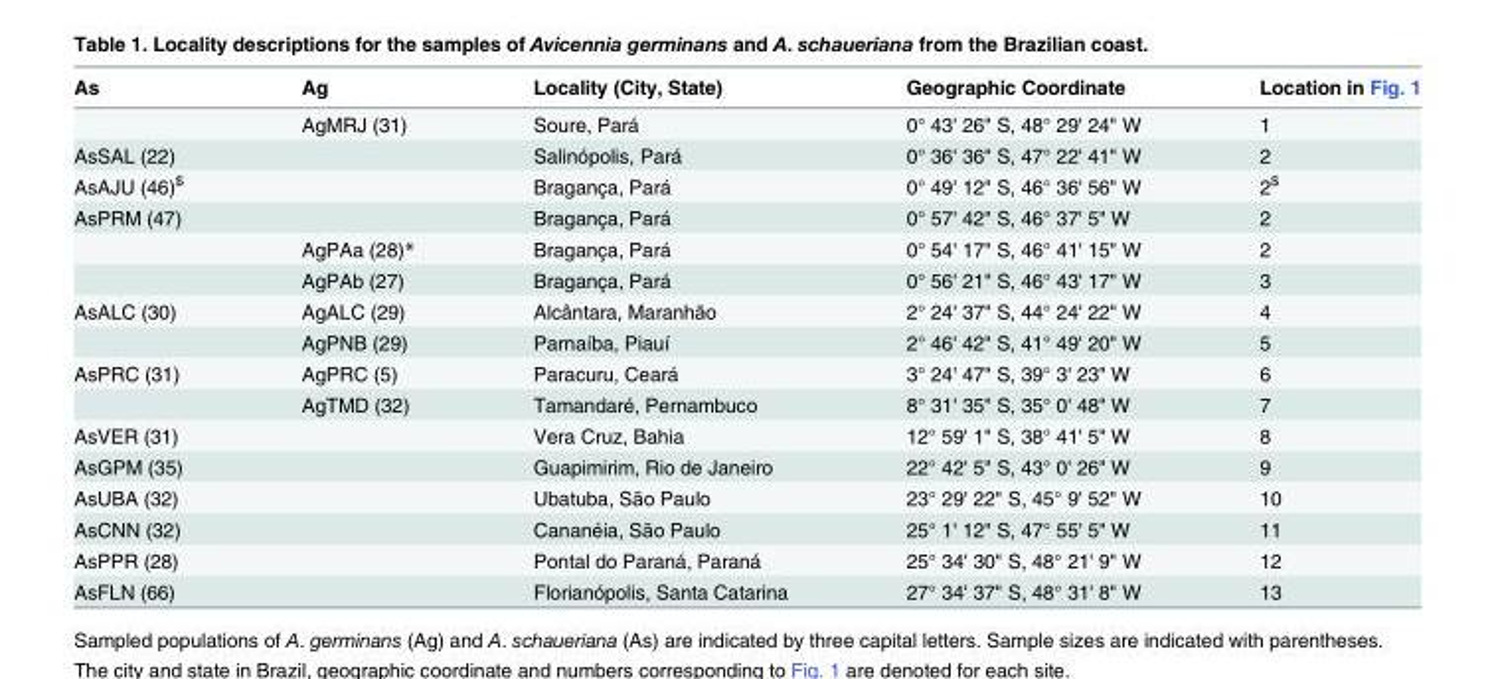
<table><thead><tr><td>As</td><td>Ag</td><td>Locality (City, State)</td><td>Geographic Coordinate</td><td>Location in Fig. 1</td></tr></thead><tbody><tr><td></td><td>AgMRJ (31)</td><td>Soure, Pará</td><td>0° 43&#x27; 26&quot; S, 48° 29&#x27; 24&quot; W</td><td>1</td></tr><tr><td>AsSAL (22)</td><td></td><td>Salinópolis, Pará</td><td>0° 36&#x27; 36&quot; S, 47° 22&#x27; 41&quot; W</td><td>2</td></tr><tr><td>AsAJU (46)<sup>$</sup></td><td></td><td>Bragança, Pará</td><td>0° 49&#x27; 12&quot; S, 46° 36&#x27; 56&quot; W</td><td>2<sup>$</sup></td></tr><tr><td rowspan="3">AsPRM (47)</td><td></td><td>Bragança, Pará</td><td>0° 57&#x27; 42&quot; S, 46° 37&#x27; 5&quot; W</td><td>2</td></tr><tr><td>AgPAa (28)*</td><td>Bragança, Pará</td><td>0° 54&#x27; 17&quot; S, 46° 41&#x27; 15&quot; W</td><td>2</td></tr><tr><td>AgPAb (27)</td><td>Bragança, Pará</td><td>0° 56&#x27; 21&quot; S, 46° 43&#x27; 17&quot; W</td><td>3</td></tr><tr><td rowspan="2">AsALC (30)</td><td>AgALC (29)</td><td>Alcântara, Maranhão</td><td>2° 24&#x27; 37&quot; S, 44° 24&#x27; 22&quot; W</td><td>4</td></tr><tr><td>AgPNB (29)</td><td>Parnaíba, Piauí</td><td>2° 46&#x27; 42&quot; S, 41° 49&#x27; 20&quot; W</td><td>5</td></tr><tr><td rowspan="2">AsPRC (31)</td><td>AgPRC (5)</td><td>Paracuru, Ceará</td><td>3° 24&#x27; 47&quot; S, 39° 3&#x27; 23&quot; W</td><td>6</td></tr><tr><td>AgTMD (32)</td><td>Tamandaré, Pernambuco</td><td>8° 31&#x27; 35&quot; S, 35° 0&#x27; 48&quot; W</td><td>7</td></tr><tr><td>AsVER (31)</td><td></td><td>Vera Cruz, Bahia</td><td>12° 59&#x27; 1&quot; S, 38° 41&#x27; 5&quot; W</td><td>8</td></tr><tr><td>AsGPM (35)</td><td></td><td>Guapimirim, Rio de Janeiro</td><td>22° 42&#x27; 5&quot; S, 43° 0&#x27; 26&quot; W</td><td>9</td></tr><tr><td>AsUBA (32)</td><td></td><td>Ubatuba, São Paulo</td><td>23° 29&#x27; 22&quot; S, 45° 9&#x27; 52&quot; W</td><td>10</td></tr><tr><td>AsCNN (32)</td><td></td><td>Cananéia, São Paulo</td><td>25° 1&#x27; 12&quot; S, 47° 55&#x27; 5&quot; W</td><td>11</td></tr><tr><td>AsPPR (28)</td><td></td><td>Pontal do Paraná, Paraná</td><td>25° 34&#x27; 30&quot; S, 48° 21&#x27; 9&quot; W</td><td>12</td></tr><tr><td>AsFLN (66)</td><td></td><td>Florianópolis, Santa Catarina</td><td>27° 34&#x27; 37&quot; S, 48° 31&#x27; 8&quot; W</td><td>13</td></tr></tbody></table>